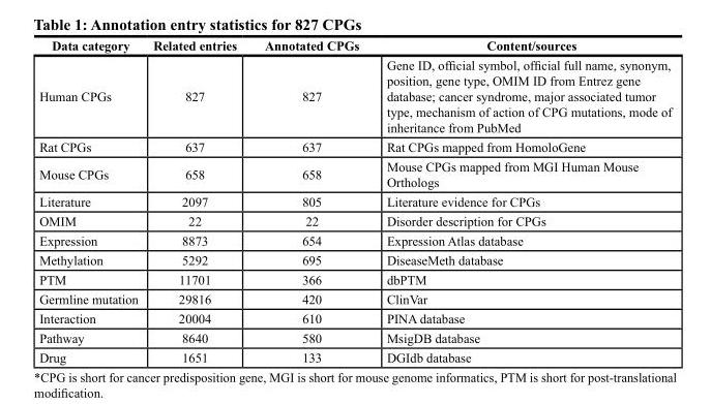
<table><thead><tr><td>Data category</td><td>related entries</td><td>Annotated cPGs</td><td>content/sources</td></tr></thead><tbody><tr><td>Human CPGs</td><td>827</td><td>827</td><td>Gene ID, official symbol, official full name, synonym, position, gene type, OMIM ID from Entrez gene database; cancer syndrome, major associated tumor type, mechanism of action of CPG mutations, mode of inheritance from PubMed</td></tr><tr><td>Rat CPGs</td><td>637</td><td>637</td><td>Rat CPGs mapped from HomoloGene</td></tr><tr><td>Mouse CPGs</td><td>658</td><td>658</td><td>Mouse CPGs mapped from MGI Human Mouse Orthologs</td></tr><tr><td>Literature</td><td>2097</td><td>805</td><td>Literature evidence for CPGs</td></tr><tr><td>OMIM</td><td>22</td><td>22</td><td>Disorder description for CPGs</td></tr><tr><td>Expression</td><td>8873</td><td>654</td><td>Expression Atlas database</td></tr><tr><td>Methylation</td><td>5292</td><td>695</td><td>DiseaseMeth database</td></tr><tr><td>PTM</td><td>11701</td><td>366</td><td>dbPTM</td></tr><tr><td>Germline mutation</td><td>29816</td><td>420</td><td>ClinVar</td></tr><tr><td>Interaction</td><td>20004</td><td>610</td><td>PINA database</td></tr><tr><td>Pathway</td><td>8640</td><td>580</td><td>MsigDB database</td></tr><tr><td>Drug</td><td>1651</td><td>133</td><td>DGIdb database</td></tr></tbody></table>